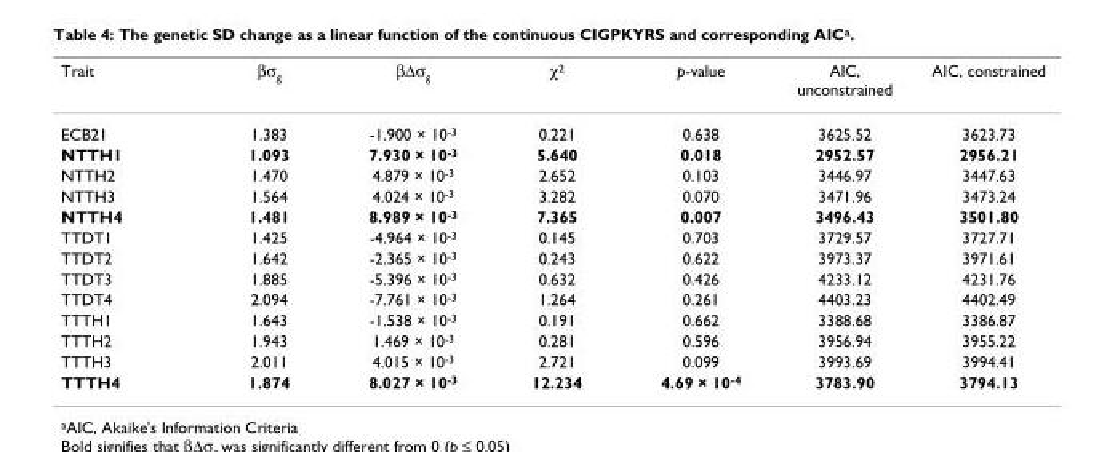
<table><thead><tr><td>Trait</td><td>βσg</td><td>β∆σg</td><td>χ2</td><td>p-value</td><td>AIC, unconstrained</td><td>AIC, constrained</td></tr></thead><tbody><tr><td>ECB21</td><td>1.383</td><td>-1.900 × 10-3</td><td>0.221</td><td>0.638</td><td>3625.52</td><td>3623.73</td></tr><tr><td>NTTH1</td><td>1.093</td><td>7.930 × 10-3</td><td>5.640</td><td>0.018</td><td>2952.57</td><td>2956.21</td></tr><tr><td>NTTH2</td><td>1.470</td><td>4.879 × 10-3</td><td>2.652</td><td>0.103</td><td>3446.97</td><td>3447.63</td></tr><tr><td>NTTH3</td><td>1.564</td><td>4.024 × 10-3</td><td>3.282</td><td>0.070</td><td>3471.96</td><td>3473.24</td></tr><tr><td>NTTH4</td><td>1.481</td><td>8.989 × 10-3</td><td>7.365</td><td>0.007</td><td>3496.43</td><td>3501.80</td></tr><tr><td>TTDT1</td><td>1.425</td><td>-4.964 × 10-3</td><td>0.145</td><td>0.703</td><td>3729.57</td><td>3727.71</td></tr><tr><td>TTDT2</td><td>1.642</td><td>-2.365 × 10-3</td><td>0.243</td><td>0.622</td><td>3973.37</td><td>3971.61</td></tr><tr><td>TTDT3</td><td>1.885</td><td>-5.396 × 10-3</td><td>0.632</td><td>0.426</td><td>4233.12</td><td>4231.76</td></tr><tr><td>TTDT4</td><td>2.094</td><td>-7.761 × 10-3</td><td>1.264</td><td>0.261</td><td>4403.23</td><td>4402.49</td></tr><tr><td>TTTH1</td><td>1.643</td><td>-1.538 × 10-3</td><td>0.191</td><td>0.662</td><td>3388.68</td><td>3386.87</td></tr><tr><td>TTTH2</td><td>1.943</td><td>1.469 × 10-3</td><td>0.281</td><td>0.596</td><td>3956.94</td><td>3955.22</td></tr><tr><td>TTTH3</td><td>2.011</td><td>4.015 × 10-3</td><td>2.721</td><td>0.099</td><td>3993.69</td><td>3994.41</td></tr><tr><td>TTTH4</td><td>1.874</td><td>8.027 × 10-3</td><td>12.234</td><td>4.69 × 10-4</td><td>3783.90</td><td>3794.13</td></tr></tbody></table>